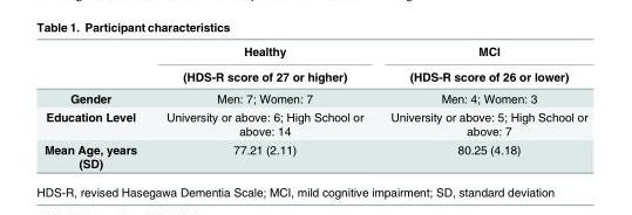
<table><thead><tr><td rowspan="2"></td><td rowspan="2">Healthy (HDS-R score of 27 or higher)</td><td rowspan="2">MCI (HDS-R score of 26 or lower)</td></tr><tr></tr></thead><tbody><tr><td>Gender</td><td>Men: 7; Women: 7</td><td>Men: 4; Women: 3</td></tr><tr><td>Education Level</td><td>University or above: 6; High School or above: 14</td><td>University or above: 5; High School or above: 7</td></tr><tr><td>Mean Age, years (SD)</td><td>77.21 (2.11)</td><td>80.25 (4.18)</td></tr></tbody></table>